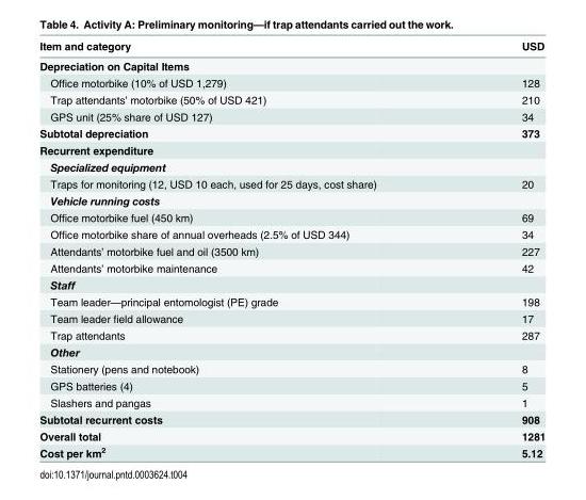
<table><thead><tr><td>Item and category</td><td>USD</td></tr></thead><tbody><tr><td colspan="2">Depreciation on Capital Items</td></tr><tr><td>Office motorbike (10% of USD 1,279)</td><td>128</td></tr><tr><td>Trap attendants’ motorbike (50% of USD 421)</td><td>210</td></tr><tr><td>GPS unit (25% share of USD 127)</td><td>34</td></tr><tr><td>Subtotal depreciation</td><td>373</td></tr><tr><td colspan="2">Recurrent expenditure</td></tr><tr><td colspan="2">Specialized equipment</td></tr><tr><td>Traps for monitoring (12, USD 10 each, used for 25 days, cost share)</td><td>20</td></tr><tr><td colspan="2">Vehicle running costs</td></tr><tr><td>Office motorbike fuel (450 km)</td><td>69</td></tr><tr><td>Office motorbike share of annual overheads (2.5% of USD 344)</td><td>34</td></tr><tr><td>Attendants’ motorbike fuel and oil (3500 km)</td><td>227</td></tr><tr><td>Attendants’ motorbike maintenance</td><td>42</td></tr><tr><td colspan="2">Staff</td></tr><tr><td>Team leader—principal entomologist (PE) grade</td><td>198</td></tr><tr><td>Team leader field allowance</td><td>17</td></tr><tr><td>Trap attendants</td><td>287</td></tr><tr><td colspan="2">Other</td></tr><tr><td>Stationery (pens and notebook)</td><td>8</td></tr><tr><td>GPS batteries (4)</td><td>5</td></tr><tr><td>Slashers and pangas</td><td>1</td></tr><tr><td>Subtotal recurrent costs</td><td>908</td></tr><tr><td>Overall total</td><td>1281</td></tr><tr><td>Cost per km<sup>2</sup></td><td>5.12</td></tr></tbody></table>